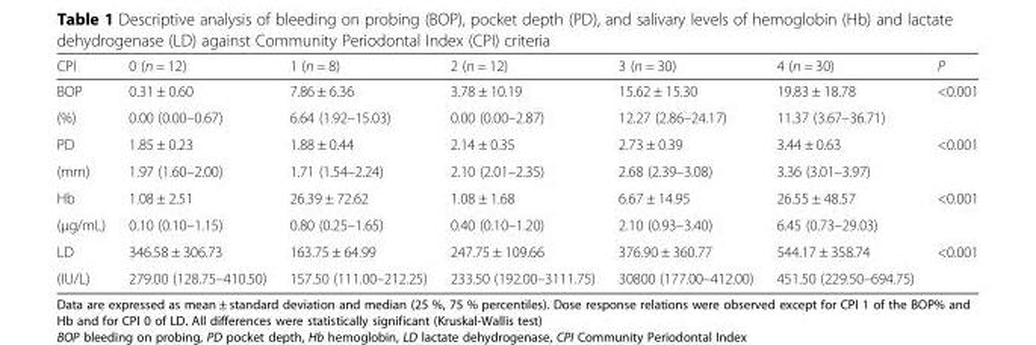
<table><thead><tr><td>CPI</td><td>0 (n = 12)</td><td>1 (n = 8)</td><td>2 (n = 12)</td><td>3 (n = 30)</td><td>4 (n = 30)</td><td>P</td></tr></thead><tbody><tr><td>BOP</td><td>0.31 ± 0.60</td><td>7.86 ± 6.36</td><td>3.78 ± 10.19</td><td>15.62 ± 15.30</td><td>19.83 ± 18.78</td><td rowspan="2">&lt;0.001</td></tr><tr><td>(%)</td><td>0.00 (0.00–0.67)</td><td>6.64 (1.92–15.03)</td><td>0.00 (0.00–2.87)</td><td>12.27 (2.86–24.17)</td><td>11.37 (3.67–36.71)</td></tr><tr><td>PD</td><td>1.85 ± 0.23</td><td>1.88 ± 0.44</td><td>2.14 ± 0.35</td><td>2.73 ± 0.39</td><td>3.44 ± 0.63</td><td rowspan="2">&lt;0.001</td></tr><tr><td>(mm)</td><td>1.97 (1.60–2.00)</td><td>1.71 (1.54–2.24)</td><td>2.10 (2.01–2.35)</td><td>2.68 (2.39–3.08)</td><td>3.36 (3.01–3.97)</td></tr><tr><td>Hb</td><td>1.08 ± 2.51</td><td>26.39 ± 72.62</td><td>1.08 ± 1.68</td><td>6.67 ± 14.95</td><td>26.55 ± 48.57</td><td rowspan="2">&lt;0.001</td></tr><tr><td>(μg/mL)</td><td>0.10 (0.10–1.15)</td><td>0.80 (0.25–1.65)</td><td>0.40 (0.10–1.20)</td><td>2.10 (0.93–3.40)</td><td>6.45 (0.73–29.03)</td></tr><tr><td>LD</td><td>346.58 ± 306.73</td><td>163.75 ± 64.99</td><td>247.75 ± 109.66</td><td>376.90 ± 360.77</td><td>544.17 ± 358.74</td><td rowspan="2">&lt;0.001</td></tr><tr><td>(IU/L)</td><td>279.00 (128.75–410.50)</td><td>157.50 (111.00–212.25)</td><td>233.50 (192.00–3111.75)</td><td>30800 (177.00–412.00)</td><td>451.50 (229.50–694.75)</td></tr></tbody></table>